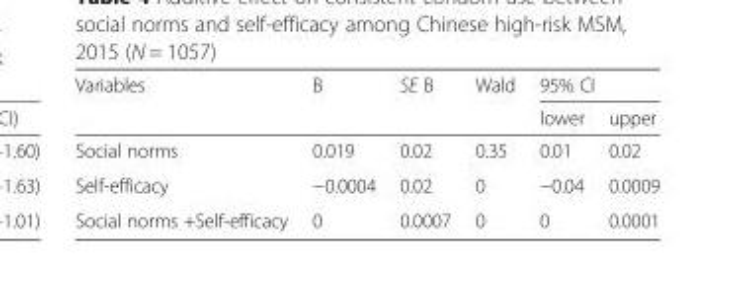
<table><thead><tr><td rowspan="2">Variables</td><td rowspan="2">B</td><td rowspan="2">SE B</td><td rowspan="2">Wald</td><td colspan="2">95% CI</td></tr><tr><td>lower</td><td>upper</td></tr></thead><tbody><tr><td>Social norms</td><td>0.019</td><td>0.02</td><td>0.35</td><td>0.01</td><td>0.02</td></tr><tr><td>Self-efficacy</td><td>−0.0004</td><td>0.02</td><td>0</td><td>−0.04</td><td>0.0009</td></tr><tr><td>Social norms +Self-efficacy</td><td>0</td><td>0.0007</td><td>0</td><td>0</td><td>0.0001</td></tr></tbody></table>